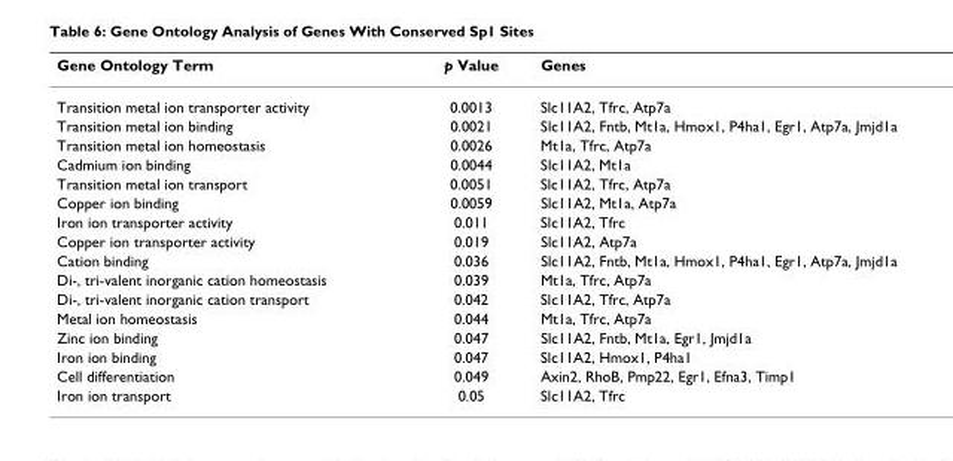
<table><thead><tr><td>Gene Ontology Term</td><td>p Value</td><td>Genes</td></tr></thead><tbody><tr><td>Transition metal ion transporter activity</td><td>0.0013</td><td>Slc11A2, Tfrc, Atp7a</td></tr><tr><td>Transition metal ion binding</td><td>0.0021</td><td>Slc11A2, Fntb, Mt1a, Hmox1, P4ha1, Egr1, Atp7a, Jmjd1a</td></tr><tr><td>Transition metal ion homeostasis</td><td>0.0026</td><td>Mt1a, Tfrc, Atp7a</td></tr><tr><td>Cadmium ion binding</td><td>0.0044</td><td>Slc11A2, Mt1a</td></tr><tr><td>Transition metal ion transport</td><td>0.0051</td><td>Slc11A2, Tfrc, Atp7a</td></tr><tr><td>Copper ion binding</td><td>0.0059</td><td>Slc11A2, Mt1a, Atp7a</td></tr><tr><td>Iron ion transporter activity</td><td>0.011</td><td>Slc11A2, Tfrc</td></tr><tr><td>Copper ion transporter activity</td><td>0.019</td><td>Slc11A2, Atp7a</td></tr><tr><td>Cation binding</td><td>0.036</td><td>Slc11A2, Fntb, Mt1a, Hmox1, P4ha1, Egr1, Atp7a, Jmjd1a</td></tr><tr><td>Di-, tri-valent inorganic cation homeostasis</td><td>0.039</td><td>Mt1a, Tfrc, Atp7a</td></tr><tr><td>Di-, tri-valent inorganic cation transport</td><td>0.042</td><td>Slc11A2, Tfrc, Atp7a</td></tr><tr><td>Metal ion homeostasis</td><td>0.044</td><td>Mt1a, Tfrc, Atp7a</td></tr><tr><td>Zinc ion binding</td><td>0.047</td><td>Slc11A2, Fntb, Mt1a, Egr1, Jmjd1a</td></tr><tr><td>Iron ion binding</td><td>0.047</td><td>Slc11A2, Hmox1, P4ha1</td></tr><tr><td>Cell differentiation</td><td>0.049</td><td>Axin2, RhoB, Pmp22, Egr1, Efna3, Timp1</td></tr><tr><td>Iron ion transport</td><td>0.05</td><td>Slc11A2, Tfrc</td></tr></tbody></table>